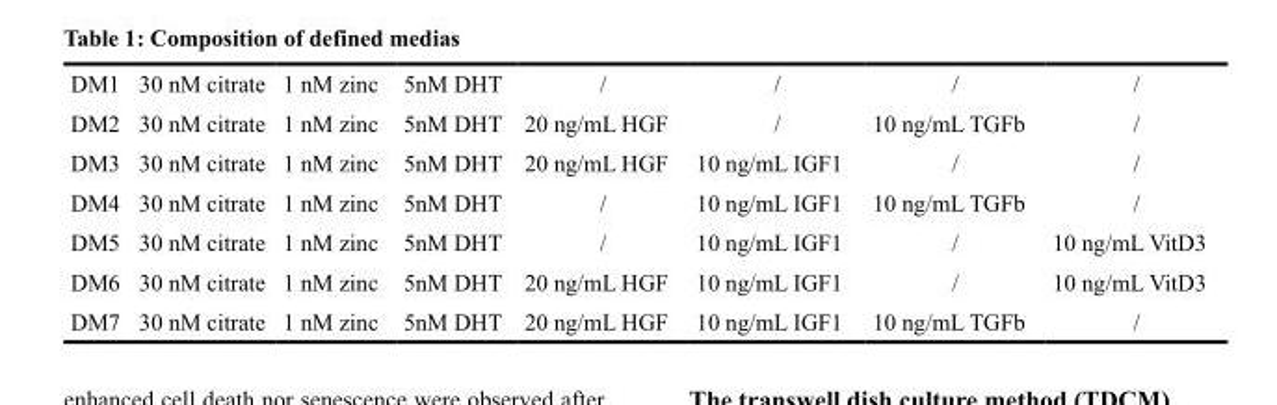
<table><tbody><tr><td>DM1</td><td>30 nM citrate</td><td>1 nM zinc</td><td>5nM DHT</td><td>/</td><td>/</td><td>/</td><td>/</td></tr><tr><td>DM2</td><td>30 nM citrate</td><td>1 nM zinc</td><td>5nM DHT</td><td>20 ng/mL HGF</td><td>/</td><td>10 ng/mL TGFb</td><td>/</td></tr><tr><td>DM3</td><td>30 nM citrate</td><td>1 nM zinc</td><td>5nM DHT</td><td>20 ng/mL HGF</td><td>10 ng/mL IGF1</td><td>/</td><td>/</td></tr><tr><td>DM4</td><td>30 nM citrate</td><td>1 nM zinc</td><td>5nM DHT</td><td>/</td><td>10 ng/mL IGF1</td><td>10 ng/mL TGFb</td><td>/</td></tr><tr><td>DM5</td><td>30 nM citrate</td><td>1 nM zinc</td><td>5nM DHT</td><td>/</td><td>10 ng/mL IGF1</td><td>/</td><td>10 ng/mL VitD3</td></tr><tr><td>DM6</td><td>30 nM citrate</td><td>1 nM zinc</td><td>5nM DHT</td><td>20 ng/mL HGF</td><td>10 ng/mL IGF1</td><td>/</td><td>10 ng/mL VitD3</td></tr><tr><td>DM7</td><td>30 nM citrate</td><td>1 nM zinc</td><td>5nM DHT</td><td>20 ng/mL HGF</td><td>10 ng/mL IGF1</td><td>10 ng/mL TGFb</td><td>/</td></tr></tbody></table>